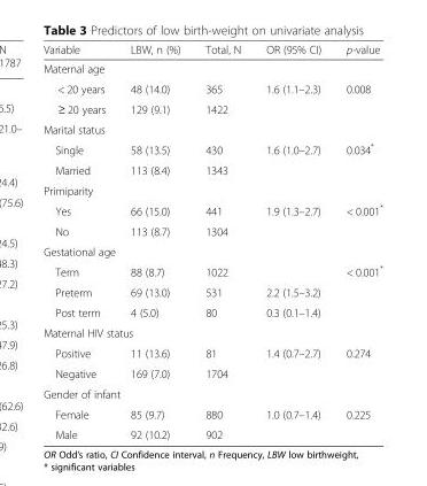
<table><thead><tr><td>Variable</td><td>LBW, n (%)</td><td>Total, N</td><td>OR (95% CI)</td><td>p-value</td></tr></thead><tbody><tr><td colspan="5">Maternal age</td></tr><tr><td>&lt; 20 years</td><td>48 (14.0)</td><td>365</td><td>1.6 (1.1–2.3)</td><td>0.008</td></tr><tr><td>≥ 20 years</td><td>129 (9.1)</td><td>1422</td><td></td><td></td></tr><tr><td colspan="5">Marital status</td></tr><tr><td>Single</td><td>58 (13.5)</td><td>430</td><td>1.6 (1.0–2.7)</td><td>0.034*</td></tr><tr><td>Married</td><td>113 (8.4)</td><td>1343</td><td></td><td></td></tr><tr><td colspan="5">Primiparity</td></tr><tr><td>Yes</td><td>66 (15.0)</td><td>441</td><td>1.9 (1.3–2.7)</td><td>&lt; 0.001*</td></tr><tr><td>No</td><td>113 (8.7)</td><td>1304</td><td></td><td></td></tr><tr><td colspan="5">Gestational age</td></tr><tr><td>Term</td><td>88 (8.7)</td><td>1022</td><td></td><td>&lt; 0.001*</td></tr><tr><td>Preterm</td><td>69 (13.0)</td><td>531</td><td>2.2 (1.5–3.2)</td><td></td></tr><tr><td>Post term</td><td>4 (5.0)</td><td>80</td><td>0.3 (0.1–1.4)</td><td></td></tr><tr><td colspan="5">Maternal HIV status</td></tr><tr><td>Positive</td><td>11 (13.6)</td><td>81</td><td>1.4 (0.7–2.7)</td><td>0.274</td></tr><tr><td>Negative</td><td>169 (7.0)</td><td>1704</td><td></td><td></td></tr><tr><td colspan="5">Gender of infant</td></tr><tr><td>Female</td><td>85 (9.7)</td><td>880</td><td>1.0 (0.7–1.4)</td><td>0.225</td></tr><tr><td>Male</td><td>92 (10.2)</td><td>902</td><td></td><td></td></tr></tbody></table>